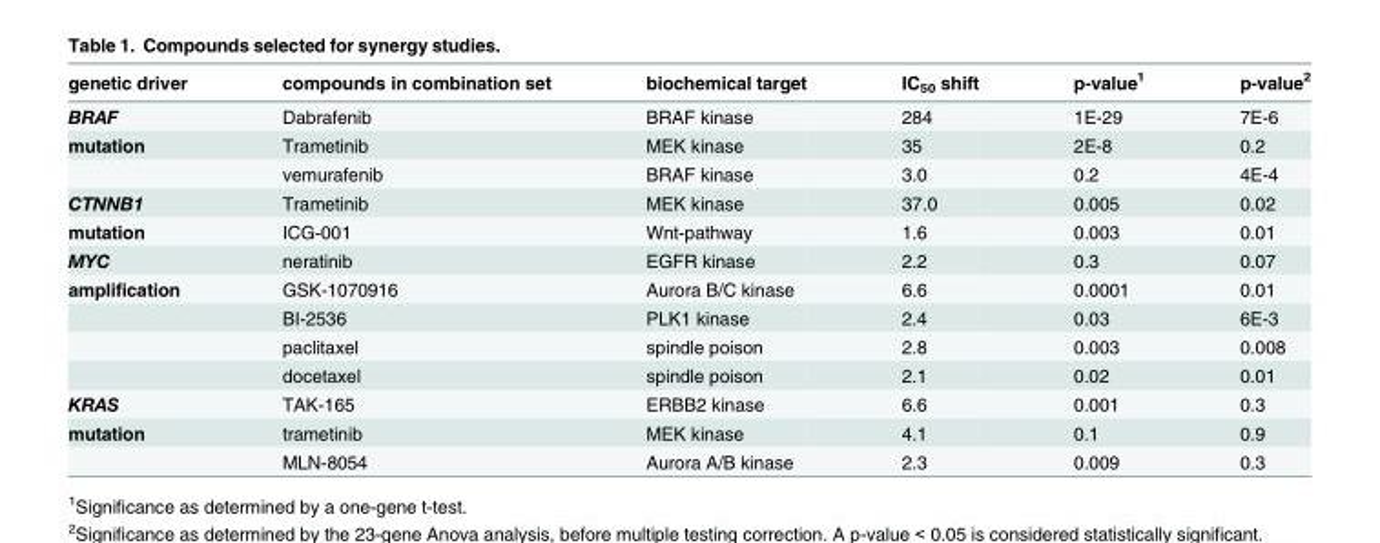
<table><thead><tr><td>genetic driver</td><td>compounds in combination set</td><td>biochemical target</td><td>IC<sub>50</sub> shift</td><td>p-value<sup>1</sup></td><td>p-value<sup>2</sup></td></tr></thead><tbody><tr><td>BRAF</td><td>Dabrafenib</td><td>BRAF kinase</td><td>284</td><td>1E-29</td><td>7E-6</td></tr><tr><td rowspan="2">mutation</td><td>Trametinib</td><td>MEK kinase</td><td>35</td><td>2E-8</td><td>0.2</td></tr><tr><td>vemurafenib</td><td>BRAF kinase</td><td>3.0</td><td>0.2</td><td>4E-4</td></tr><tr><td>CTNNB1</td><td>Trametinib</td><td>MEK kinase</td><td>37.0</td><td>0.005</td><td>0.02</td></tr><tr><td>mutation</td><td>ICG-001</td><td>Wnt-pathway</td><td>1.6</td><td>0.003</td><td>0.01</td></tr><tr><td>MYC</td><td>neratinib</td><td>EGFR kinase</td><td>2.2</td><td>0.3</td><td>0.07</td></tr><tr><td rowspan="4">amplification</td><td>GSK-1070916</td><td>Aurora B/C kinase</td><td>6.6</td><td>0.0001</td><td>0.01</td></tr><tr><td>BI-2536</td><td>PLK1 kinase</td><td>2.4</td><td>0.03</td><td>6E-3</td></tr><tr><td>paclitaxel</td><td>spindle poison</td><td>2.8</td><td>0.003</td><td>0.008</td></tr><tr><td>docetaxel</td><td>spindle poison</td><td>2.1</td><td>0.02</td><td>0.01</td></tr><tr><td>KRAS</td><td>TAK-165</td><td>ERBB2 kinase</td><td>6.6</td><td>0.001</td><td>0.3</td></tr><tr><td rowspan="2">mutation</td><td>trametinib</td><td>MEK kinase</td><td>4.1</td><td>0.1</td><td>0.9</td></tr><tr><td>MLN-8054</td><td>Aurora A/B kinase</td><td>2.3</td><td>0.009</td><td>0.3</td></tr></tbody></table>